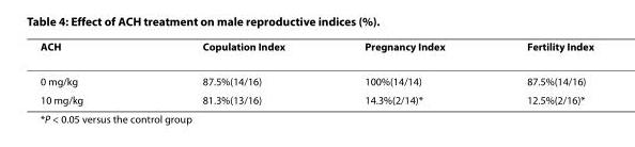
<table><thead><tr><td>ACH</td><td>Copulation Index</td><td>Pregnancy Index</td><td>Fertility Index</td></tr></thead><tbody><tr><td>0 mg/kg</td><td>87.5%(14/16)</td><td>100%(14/14)</td><td>87.5%(14/16)</td></tr><tr><td>10 mg/kg</td><td>81.3%(13/16)</td><td>14.3%(2/14)*</td><td>12.5%(2/16)*</td></tr></tbody></table>